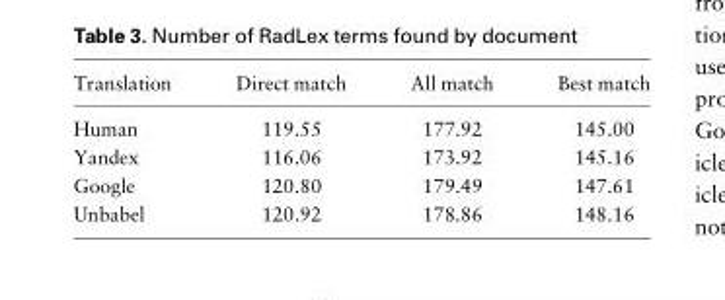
<table><thead><tr><td>Translation</td><td>Direct match</td><td>All match</td><td>Best match</td></tr></thead><tbody><tr><td>Human</td><td>119.55</td><td>177.92</td><td>145.00</td></tr><tr><td>Yandex</td><td>116.06</td><td>173.92</td><td>145.16</td></tr><tr><td>Google</td><td>120.80</td><td>179.49</td><td>147.61</td></tr><tr><td>Unbabel</td><td>120.92</td><td>178.86</td><td>148.16</td></tr></tbody></table>